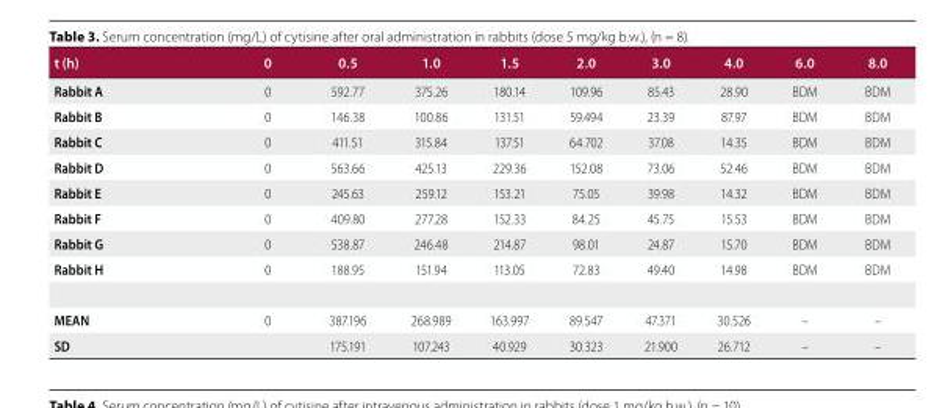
<table><thead><tr><td>t (h)</td><td>0</td><td>0.5</td><td>1.0</td><td>1.5</td><td>2.0</td><td>3.0</td><td>4.0</td><td>6.0</td><td>8.0</td></tr></thead><tbody><tr><td>Rabbit A</td><td>0</td><td>592.77</td><td>375.26</td><td>180.14</td><td>109.96</td><td>85.43</td><td>28.90</td><td>BDM</td><td>BDM</td></tr><tr><td>Rabbit B</td><td>0</td><td>146.38</td><td>100.86</td><td>131.51</td><td>59.494</td><td>23.39</td><td>87.97</td><td>BDM</td><td>BDM</td></tr><tr><td>Rabbit C</td><td>0</td><td>411.51</td><td>315.84</td><td>137.51</td><td>64.702</td><td>37.08</td><td>14.35</td><td>BDM</td><td>BDM</td></tr><tr><td>Rabbit D</td><td>0</td><td>563.66</td><td>425.13</td><td>229.36</td><td>152.08</td><td>73.06</td><td>52.46</td><td>BDM</td><td>BDM</td></tr><tr><td>Rabbit E</td><td>0</td><td>245.63</td><td>259.12</td><td>153.21</td><td>75.05</td><td>39.98</td><td>14.32</td><td>BDM</td><td>BDM</td></tr><tr><td>Rabbit F</td><td>0</td><td>409.80</td><td>277.28</td><td>152.33</td><td>84.25</td><td>45.75</td><td>15.53</td><td>BDM</td><td>BDM</td></tr><tr><td>Rabbit G</td><td>0</td><td>538.87</td><td>246.48</td><td>214.87</td><td>98.01</td><td>24.87</td><td>15.70</td><td>BDM</td><td>BDM</td></tr><tr><td>Rabbit H</td><td>0</td><td>188.95</td><td>151.94</td><td>113.05</td><td>72.83</td><td>49.40</td><td>14.98</td><td>BDM</td><td>BDM</td></tr><tr><td>MEAN</td><td>0</td><td>387.196</td><td>268.989</td><td>163.997</td><td>89.547</td><td>47.371</td><td>30.526</td><td>–</td><td>–</td></tr><tr><td>SD</td><td></td><td>175.191</td><td>107.243</td><td>40.929</td><td>30.323</td><td>21.900</td><td>26.712</td><td>–</td><td>–</td></tr></tbody></table>